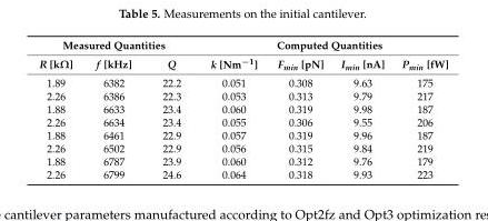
<table><thead><tr><td colspan="3">Measured Quantities</td><td colspan="4">Computed Quantities</td></tr><tr><td>R [kΩ]</td><td>f [kHz]</td><td>Q</td><td>k [Nm<sup>−1</sup>]</td><td>F<sub>min</sub> [pN]</td><td>I<sub>min</sub> [nA]</td><td>P<sub>min</sub> [fW]</td></tr></thead><tbody><tr><td>1.89</td><td>6382</td><td>22.2</td><td>0.051</td><td>0.308</td><td>9.63</td><td>175</td></tr><tr><td>2.26</td><td>6386</td><td>22.3</td><td>0.053</td><td>0.313</td><td>9.79</td><td>217</td></tr><tr><td>1.88</td><td>6633</td><td>23.4</td><td>0.060</td><td>0.319</td><td>9.98</td><td>187</td></tr><tr><td>2.26</td><td>6634</td><td>23.4</td><td>0.055</td><td>0.306</td><td>9.55</td><td>206</td></tr><tr><td>1.88</td><td>6461</td><td>22.9</td><td>0.057</td><td>0.319</td><td>9.96</td><td>187</td></tr><tr><td>2.26</td><td>6502</td><td>22.9</td><td>0.056</td><td>0.315</td><td>9.84</td><td>219</td></tr><tr><td>1.88</td><td>6787</td><td>23.9</td><td>0.060</td><td>0.312</td><td>9.76</td><td>179</td></tr><tr><td>2.26</td><td>6799</td><td>24.6</td><td>0.064</td><td>0.318</td><td>9.93</td><td>223</td></tr></tbody></table>